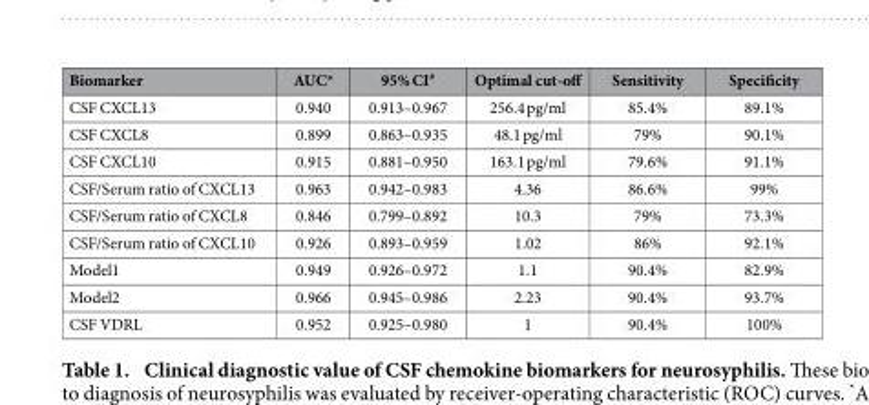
<table><thead><tr><td>Biomarker</td><td>AUC*</td><td>95% CI#</td><td>Optimal cut-off</td><td>Sensitivity</td><td>Specificity</td></tr></thead><tbody><tr><td>CSF CXCL13</td><td>0.940</td><td>0.913–0.967</td><td>256.4 pg/ml</td><td>85.4%</td><td>89.1%</td></tr><tr><td>CSF CXCL8</td><td>0.899</td><td>0.863–0.935</td><td>48.1 pg/ml</td><td>79%</td><td>90.1%</td></tr><tr><td>CSF CXCL10</td><td>0.915</td><td>0.881–0.950</td><td>163.1 pg/ml</td><td>79.6%</td><td>91.1%</td></tr><tr><td>CSF/Serum ratio of CXCL13</td><td>0.963</td><td>0.942–0.983</td><td>4.36</td><td>86.6%</td><td>99%</td></tr><tr><td>CSF/Serum ratio of CXCL8</td><td>0.846</td><td>0.799–0.892</td><td>10.3</td><td>79%</td><td>73.3%</td></tr><tr><td>CSF/Serum ratio of CXCL10</td><td>0.926</td><td>0.893–0.959</td><td>1.02</td><td>86%</td><td>92.1%</td></tr><tr><td>Model1</td><td>0.949</td><td>0.926–0.972</td><td>1.1</td><td>90.4%</td><td>82.9%</td></tr><tr><td>Model2</td><td>0.966</td><td>0.945–0.986</td><td>2.23</td><td>90.4%</td><td>93.7%</td></tr><tr><td>CSF VDRL</td><td>0.952</td><td>0.925–0.980</td><td>1</td><td>90.4%</td><td>100%</td></tr></tbody></table>